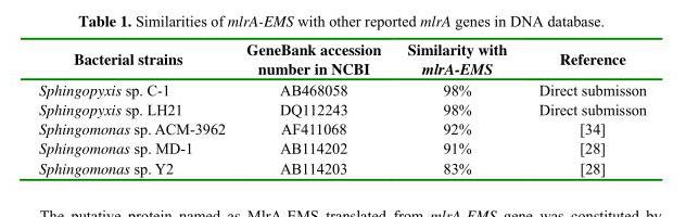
<table><thead><tr><td>Bacterial strains</td><td>GeneBank accession number in NCBI</td><td>Similarity with mlrA-EMS</td><td>Reference</td></tr></thead><tbody><tr><td>Sphingopyxis sp. C-1</td><td>AB468058</td><td>98%</td><td>Direct submisson</td></tr><tr><td>Sphingopyxis sp. LH21</td><td>DQ112243</td><td>98%</td><td>Direct submisson</td></tr><tr><td>Sphingomonas sp. ACM-3962</td><td>AF411068</td><td>92%</td><td>[34]</td></tr><tr><td>Sphingomonas sp. MD-1</td><td>AB114202</td><td>91%</td><td>[28]</td></tr><tr><td>Sphingomonas sp. Y2</td><td>AB114203</td><td>83%</td><td>[28]</td></tr></tbody></table>